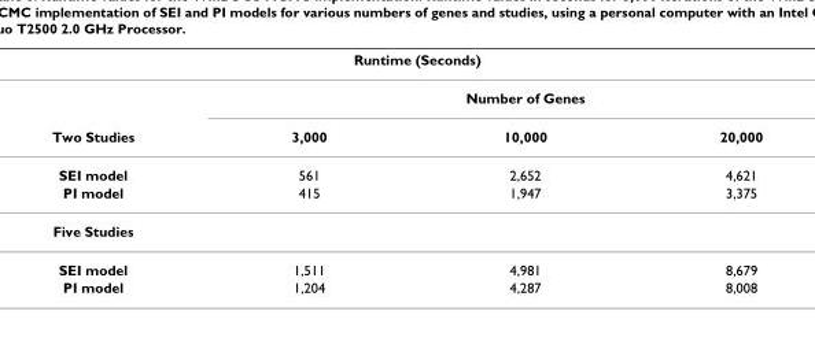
<table><thead><tr><td colspan="4">Runtime (Seconds)</td></tr><tr><td rowspan="2">Two Studies</td><td colspan="3">Number of Genes</td></tr><tr><td>3,000</td><td>10,000</td><td>20,000</td></tr></thead><tbody><tr><td>SEI model</td><td>561</td><td>2,652</td><td>4,621</td></tr><tr><td>PI model</td><td>415</td><td>1,947</td><td>3,375</td></tr><tr><td colspan="4">Five Studies</td></tr><tr><td>SEI model</td><td>1,511</td><td>4,981</td><td>8,679</td></tr><tr><td>PI model</td><td>1,204</td><td>4,287</td><td>8,008</td></tr></tbody></table>